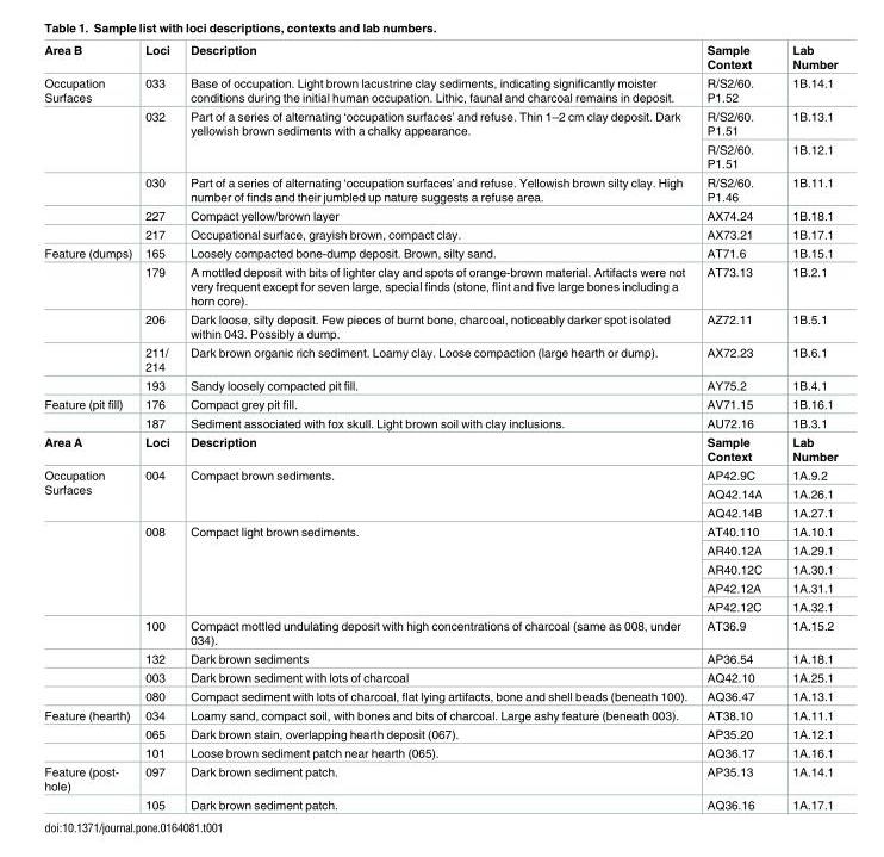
<table><tbody><tr><td>Area B</td><td>Loci</td><td>Description</td><td>Sample Context</td><td>Lab Number</td></tr><tr><td rowspan="6">Occupation Surfaces</td><td>033</td><td>Base of occupation. Light brown lacustrine clay sediments, indicating significantly moister conditions during the initial human occupation. Lithic, faunal and charcoal remains in deposit.</td><td>R/S2/60. P1.52</td><td>1B.14.1</td></tr><tr><td rowspan="2">032</td><td rowspan="2">Part of a series of alternating ‘occupation surfaces’ and refuse. Thin 1–2 cm clay deposit. Dark yellowish brown sediments with a chalky appearance.</td><td>R/S2/60. P1.51</td><td>1B.13.1</td></tr><tr><td>R/S2/60. P1.51</td><td>1B.12.1</td></tr><tr><td>030</td><td>Part of a series of alternating ‘occupation surfaces’ and refuse. Yellowish brown silty clay. High number of finds and their jumbled up nature suggests a refuse area.</td><td>R/S2/60. P1.46</td><td>1B.11.1</td></tr><tr><td>227</td><td>Compact yellow/brown layer</td><td>AX74.24</td><td>1B.18.1</td></tr><tr><td>217</td><td>Occupational surface, grayish brown, compact clay.</td><td>AX73.21</td><td>1B.17.1</td></tr><tr><td rowspan="5">Feature (dumps)</td><td>165</td><td>Loosely compacted bone-dump deposit. Brown, silty sand.</td><td>AT71.6</td><td>1B.15.1</td></tr><tr><td>179</td><td>A mottled deposit with bits of lighter clay and spots of orange-brown material. Artifacts were not very frequent except for seven large, special finds (stone, flint and five large bones including a horn core).</td><td>AT73.13</td><td>1B.2.1</td></tr><tr><td>206</td><td>Dark loose, silty deposit. Few pieces of burnt bone, charcoal, noticeably darker spot isolated within 043. Possibly a dump.</td><td>AZ72.11</td><td>1B.5.1</td></tr><tr><td>211/ 214</td><td>Dark brown organic rich sediment. Loamy clay. Loose compaction (large hearth or dump).</td><td>AX72.23</td><td>1B.6.1</td></tr><tr><td>193</td><td>Sandy loosely compacted pit fill.</td><td>AY75.2</td><td>1B.4.1</td></tr><tr><td rowspan="2">Feature (pit fill)</td><td>176</td><td>Compact grey pit fill.</td><td>AV71.15</td><td>1B.16.1</td></tr><tr><td>187</td><td>Sediment associated with fox skull. Light brown soil with clay inclusions.</td><td>AU72.16</td><td>1B.3.1</td></tr><tr><td>Area A</td><td>Loci</td><td>Description</td><td>Sample Context</td><td>Lab Number</td></tr><tr><td rowspan="12">Occupation Surfaces</td><td rowspan="3">004</td><td rowspan="3">Compact brown sediments.</td><td>AP42.9C</td><td>1A.9.2</td></tr><tr><td>AQ42.14A</td><td>1A.26.1</td></tr><tr><td>AQ42.14B</td><td>1A.27.1</td></tr><tr><td rowspan="5">008</td><td rowspan="5">Compact light brown sediments.</td><td>AT40.110</td><td>1A.10.1</td></tr><tr><td>AR40.12A</td><td>1A.29.1</td></tr><tr><td>AR40.12C</td><td>1A.30.1</td></tr><tr><td>AP42.12A</td><td>1A.31.1</td></tr><tr><td>AP42.12C</td><td>1A.32.1</td></tr><tr><td>100</td><td>Compact mottled undulating deposit with high concentrations of charcoal (same as 008, under 034).</td><td>AT36.9</td><td>1A.15.2</td></tr><tr><td>132</td><td>Dark brown sediments</td><td>AP36.54</td><td>1A.18.1</td></tr><tr><td>003</td><td>Dark brown sediment with lots of charcoal</td><td>AQ42.10</td><td>1A.25.1</td></tr><tr><td>080</td><td>Compact sediment with lots of charcoal, flat lying artifacts, bone and shell beads (beneath 100).</td><td>AQ36.47</td><td>1A.13.1</td></tr><tr><td rowspan="3">Feature (hearth)</td><td>034</td><td>Loamy sand, compact soil, with bones and bits of charcoal. Large ashy feature (beneath 003).</td><td>AT38.10</td><td>1A.11.1</td></tr><tr><td>065</td><td>Dark brown stain, overlapping hearth deposit (067).</td><td>AP35.20</td><td>1A.12.1</td></tr><tr><td>101</td><td>Loose brown sediment patch near hearth (065).</td><td>AQ36.17</td><td>1A.16.1</td></tr><tr><td rowspan="2">Feature (post- hole)</td><td>097</td><td>Dark brown sediment patch.</td><td>AP35.13</td><td>1A.14.1</td></tr><tr><td>105</td><td>Dark brown sediment patch.</td><td>AQ36.16</td><td>1A.17.1</td></tr></tbody></table>